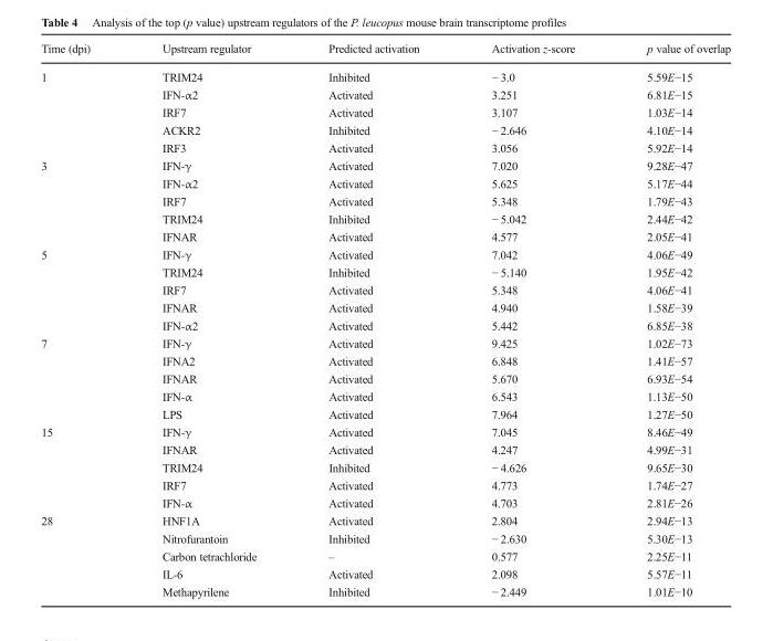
<table><thead><tr><td>Time (dpi)</td><td>Upstream regulator</td><td>Predicted activation</td><td>Activation z-score</td><td>p value of overlap</td></tr></thead><tbody><tr><td rowspan="5">1</td><td>TRIM24</td><td>Inhibited</td><td>− 3.0</td><td>5.59E−15</td></tr><tr><td>IFN-α2</td><td>Activated</td><td>3.251</td><td>6.81E−15</td></tr><tr><td>IRF7</td><td>Activated</td><td>3.107</td><td>1.03E−14</td></tr><tr><td>ACKR2</td><td>Inhibited</td><td>− 2.646</td><td>4.10E−14</td></tr><tr><td>IRF3</td><td>Activated</td><td>3.056</td><td>5.92E−14</td></tr><tr><td rowspan="5">3</td><td>IFN-γ</td><td>Activated</td><td>7.020</td><td>9.28E−47</td></tr><tr><td>IFN-α2</td><td>Activated</td><td>5.625</td><td>5.17E−44</td></tr><tr><td>IRF7</td><td>Activated</td><td>5.348</td><td>1.79E−43</td></tr><tr><td>TRIM24</td><td>Inhibited</td><td>− 5.042</td><td>2.44E−42</td></tr><tr><td>IFNAR</td><td>Activated</td><td>4.577</td><td>2.05E−41</td></tr><tr><td rowspan="5">5</td><td>IFN-γ</td><td>Activated</td><td>7.042</td><td>4.06E−49</td></tr><tr><td>TRIM24</td><td>Inhibited</td><td>− 5.140</td><td>1.95E−42</td></tr><tr><td>IRF7</td><td>Activated</td><td>5.348</td><td>4.06E−41</td></tr><tr><td>IFNAR</td><td>Activated</td><td>4.940</td><td>1.58E−39</td></tr><tr><td>IFN-α2</td><td>Activated</td><td>5.442</td><td>6.85E−38</td></tr><tr><td rowspan="5">7</td><td>IFN-γ</td><td>Activated</td><td>9.425</td><td>1.02E−73</td></tr><tr><td>IFNA2</td><td>Activated</td><td>6.848</td><td>1.41E−57</td></tr><tr><td>IFNAR</td><td>Activated</td><td>5.670</td><td>6.93E−54</td></tr><tr><td>IFN-α</td><td>Activated</td><td>6.543</td><td>1.13E−50</td></tr><tr><td>LPS</td><td>Activated</td><td>7.964</td><td>1.27E−50</td></tr><tr><td rowspan="5">15</td><td>IFN-γ</td><td>Activated</td><td>7.045</td><td>8.46E−49</td></tr><tr><td>IFNAR</td><td>Activated</td><td>4.247</td><td>4.99E−31</td></tr><tr><td>TRIM24</td><td>Inhibited</td><td>− 4.626</td><td>9.65E−30</td></tr><tr><td>IRF7</td><td>Activated</td><td>4.773</td><td>1.74E−27</td></tr><tr><td>IFN-α</td><td>Activated</td><td>4.703</td><td>2.81E−26</td></tr><tr><td rowspan="5">28</td><td>HNF1A</td><td>Activated</td><td>2.804</td><td>2.94E−13</td></tr><tr><td>Nitrofurantoin</td><td>Inhibited</td><td>− 2.630</td><td>5.30E−13</td></tr><tr><td>Carbon tetrachloride</td><td>–</td><td>0.577</td><td>2.25E−11</td></tr><tr><td>IL-6</td><td>Activated</td><td>2.098</td><td>5.57E−11</td></tr><tr><td>Methapyrilene</td><td>Inhibited</td><td>− 2.449</td><td>1.01E−10</td></tr></tbody></table>